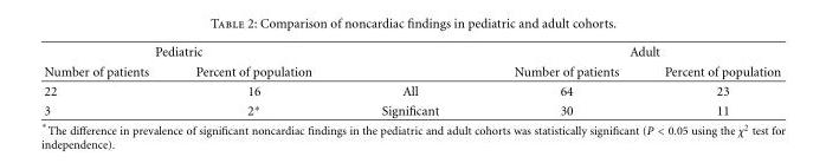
<table><thead><tr><td colspan="2">Pediatric</td><td rowspan="2"></td><td colspan="2">Adult</td></tr><tr><td>Number of patients</td><td>Percent of population</td><td>Number of patients</td><td>Percent of population</td></tr></thead><tbody><tr><td>22</td><td>16</td><td>All</td><td>64</td><td>23</td></tr><tr><td>3</td><td>2∗</td><td>Significant</td><td>30</td><td>11</td></tr></tbody></table>